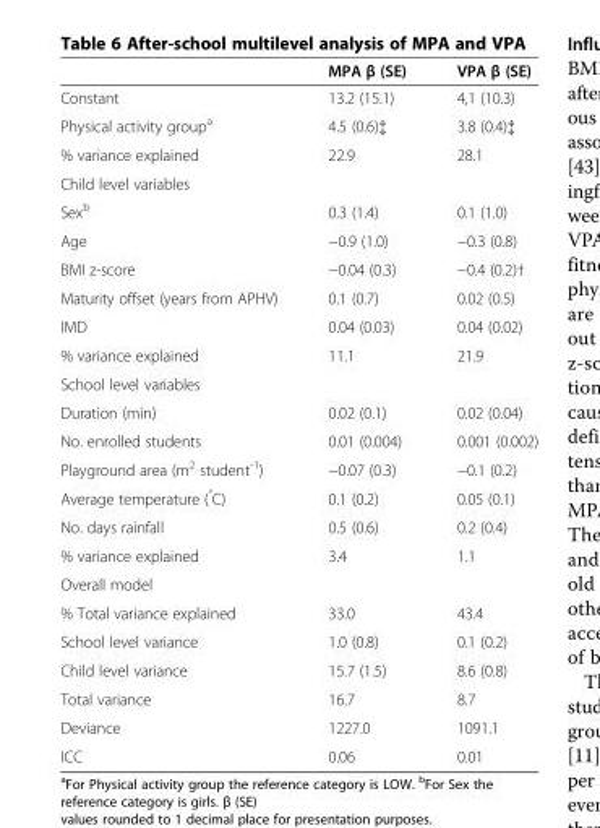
<table><thead><tr><td></td><td>MPA β (SE)</td><td>VPA β (SE)</td></tr></thead><tbody><tr><td>Constant</td><td>13.2 (15.1)</td><td>4,1 (10.3)</td></tr><tr><td>Physical activity group<sup>a</sup></td><td>4.5 (0.6)‡</td><td>3.8 (0.4)‡</td></tr><tr><td>% variance explained</td><td>22.9</td><td>28.1</td></tr><tr><td colspan="3">Child level variables</td></tr><tr><td>Sex<sup>b</sup></td><td>0.3 (1.4)</td><td>0.1 (1.0)</td></tr><tr><td>Age</td><td>−0.9 (1.0)</td><td>−0.3 (0.8)</td></tr><tr><td>BMI z-score</td><td>−0.04 (0.3)</td><td>−0.4 (0.2)†</td></tr><tr><td>Maturity offset (years from APHV)</td><td>0.1 (0.7)</td><td>0.02 (0.5)</td></tr><tr><td>IMD</td><td>0.04 (0.03)</td><td>0.04 (0.02)</td></tr><tr><td>% variance explained</td><td>11.1</td><td>21.9</td></tr><tr><td colspan="3">School level variables</td></tr><tr><td>Duration (min)</td><td>0.02 (0.1)</td><td>0.02 (0.04)</td></tr><tr><td>No. enrolled students</td><td>0.01 (0.004)</td><td>0.001 (0.002)</td></tr><tr><td>Playground area (m<sup>2</sup> student<sup>-1</sup>)</td><td>−0.07 (0.3)</td><td>−0.1 (0.2)</td></tr><tr><td>Average temperature (<sup>°</sup>C)</td><td>0.1 (0.2)</td><td>0.05 (0.1)</td></tr><tr><td>No. days rainfall</td><td>0.5 (0.6)</td><td>0.2 (0.4)</td></tr><tr><td>% variance explained</td><td>3.4</td><td>1.1</td></tr><tr><td colspan="3">Overall model</td></tr><tr><td>% Total variance explained</td><td>33.0</td><td>43.4</td></tr><tr><td>School level variance</td><td>1.0 (0.8)</td><td>0.1 (0.2)</td></tr><tr><td>Child level variance</td><td>15.7 (1.5)</td><td>8.6 (0.8)</td></tr><tr><td>Total variance</td><td>16.7</td><td>8.7</td></tr><tr><td>Deviance</td><td>1227.0</td><td>1091.1</td></tr><tr><td>ICC</td><td>0.06</td><td>0.01</td></tr></tbody></table>